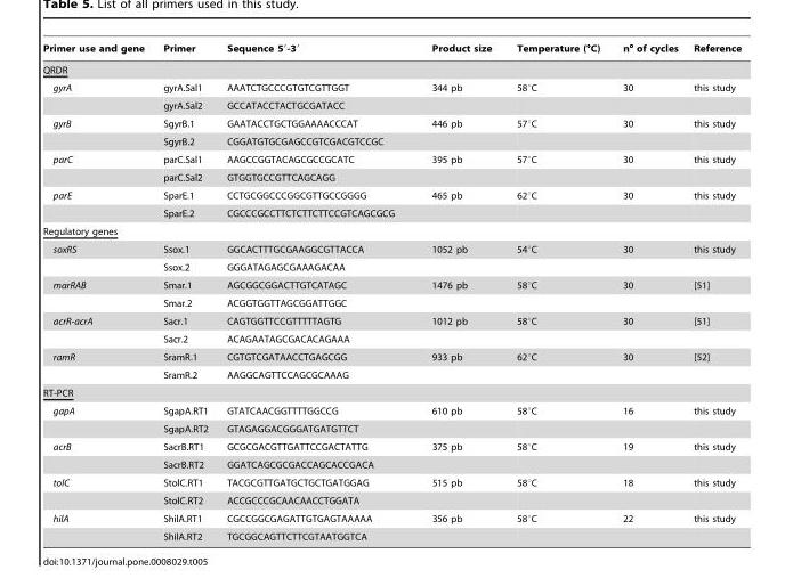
<table><thead><tr><td>Primer use and gene</td><td>Primer</td><td>Sequence 5′-3′</td><td>Product size</td><td>Temperature (°C)</td><td>n° of cycles</td><td>Reference</td></tr></thead><tbody><tr><td colspan="7">QRDR</td></tr><tr><td rowspan="2">gyrA</td><td>gyrA.Sal1</td><td>AAATCTGCCCGTGTCGTTGGT</td><td>344 pb</td><td>58°C</td><td>30</td><td>this study</td></tr><tr><td>gyrA.Sal2</td><td>GCCATACCTACTGCGATACC</td><td></td><td></td><td></td><td></td></tr><tr><td rowspan="2">gyrB</td><td>SgyrB.1</td><td>GAATACCTGCTGGAAAACCCAT</td><td>446 pb</td><td>57°C</td><td>30</td><td>this study</td></tr><tr><td>SgyrB.2</td><td>CGGATGTGCGAGCCGTCGACGTCCGC</td><td></td><td></td><td></td><td></td></tr><tr><td rowspan="2">parC</td><td>parC.Sal1</td><td>AAGCCGGTACAGCGCCGCATC</td><td>395 pb</td><td>57°C</td><td>30</td><td>this study</td></tr><tr><td>parC.Sal2</td><td>GTGGTGCCGTTCAGCAGG</td><td></td><td></td><td></td><td></td></tr><tr><td rowspan="2">parE</td><td>SparE.1</td><td>CCTGCGGCCCGGCGTTGCCGGGG</td><td>465 pb</td><td>62°C</td><td>30</td><td>this study</td></tr><tr><td>SparE.2</td><td>CGCCCGCCTTCTCTTCTTCCGTCAGCGCG</td><td></td><td></td><td></td><td></td></tr><tr><td colspan="7">Regulatory genes</td></tr><tr><td rowspan="2">soxRS</td><td>Ssox.1</td><td>GGCACTTTGCGAAGGCGTTACCA</td><td>1052 pb</td><td>54°C</td><td>30</td><td>this study</td></tr><tr><td>Ssox.2</td><td>GGGATAGAGCGAAAGACAA</td><td></td><td></td><td></td><td></td></tr><tr><td rowspan="2">marRAB</td><td>Smar.1</td><td>AGCGGCGGACTTGTCATAGC</td><td>1476 pb</td><td>58°C</td><td>30</td><td>[51]</td></tr><tr><td>Smar.2</td><td>ACGGTGGTTAGCGGATTGGC</td><td></td><td></td><td></td><td></td></tr><tr><td rowspan="2">acrR-acrA</td><td>Sacr.1</td><td>CAGTGGTTCCGTTTTTAGTG</td><td>1012 pb</td><td>58°C</td><td>30</td><td>[51]</td></tr><tr><td>Sacr.2</td><td>ACAGAATAGCGACACAGAAA</td><td></td><td></td><td></td><td></td></tr><tr><td rowspan="2">ramR</td><td>SramR.1</td><td>CGTGTCGATAACCTGAGCGG</td><td>933 pb</td><td>62°C</td><td>30</td><td>[52]</td></tr><tr><td>SramR.2</td><td>AAGGCAGTTCCAGCGCAAAG</td><td></td><td></td><td></td><td></td></tr><tr><td colspan="7">RT-PCR</td></tr><tr><td rowspan="2">gapA</td><td>SgapA.RT1</td><td>GTATCAACGGTTTTGGCCG</td><td>610 pb</td><td>58°C</td><td>16</td><td>this study</td></tr><tr><td>SgapA.RT2</td><td>GTAGAGGACGGGATGATGTTCT</td><td></td><td></td><td></td><td></td></tr><tr><td rowspan="2">acrB</td><td>SacrB.RT1</td><td>GCGCGACGTTGATTCCGACTATTG</td><td>375 pb</td><td>58°C</td><td>19</td><td>this study</td></tr><tr><td>SacrB.RT2</td><td>GGATCAGCGCGACCAGCACCGACA</td><td></td><td></td><td></td><td></td></tr><tr><td rowspan="2">tolC</td><td>StolC.RT1</td><td>TACGCGTTGATGCTGCTGATGGAG</td><td>515 pb</td><td>58°C</td><td>18</td><td>this study</td></tr><tr><td>StolC.RT2</td><td>ACCGCCCGCAACAACCTGGATA</td><td></td><td></td><td></td><td></td></tr><tr><td rowspan="2">hilA</td><td>ShilA.RT1</td><td>CGCCGGCGAGATTGTGAGTAAAAA</td><td>356 pb</td><td>58°C</td><td>22</td><td>this study</td></tr><tr><td>ShilA.RT2</td><td>TGCGGCAGTTCTTCGTAATGGTCA</td><td></td><td></td><td></td><td></td></tr></tbody></table>